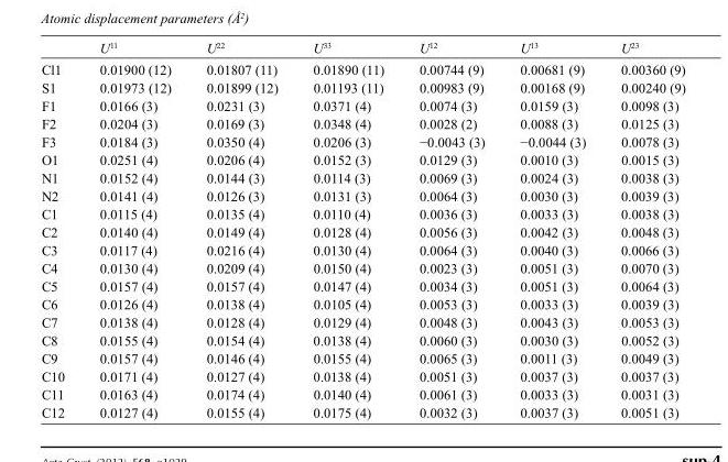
<table><thead><tr><td></td><td>U<sup>11</sup></td><td>U<sup>22</sup></td><td>U<sup>33</sup></td><td>U<sup>12</sup></td><td>U<sup>13</sup></td><td>U<sup>23</sup></td></tr></thead><tbody><tr><td>Cl1</td><td>0.01900 (12)</td><td>0.01807 (11)</td><td>0.01890 (11)</td><td>0.00744 (9)</td><td>0.00681 (9)</td><td>0.00360 (9)</td></tr><tr><td>S1</td><td>0.01973 (12)</td><td>0.01899 (12)</td><td>0.01193 (11)</td><td>0.00983 (9)</td><td>0.00168 (9)</td><td>0.00240 (9)</td></tr><tr><td>F1</td><td>0.0166 (3)</td><td>0.0231 (3)</td><td>0.0371 (4)</td><td>0.0074 (3)</td><td>0.0159 (3)</td><td>0.0098 (3)</td></tr><tr><td>F2</td><td>0.0204 (3)</td><td>0.0169 (3)</td><td>0.0348 (4)</td><td>0.0028 (2)</td><td>0.0088 (3)</td><td>0.0125 (3)</td></tr><tr><td>F3</td><td>0.0184 (3)</td><td>0.0350 (4)</td><td>0.0206 (3)</td><td>−0.0043 (3)</td><td>−0.0044 (3)</td><td>0.0078 (3)</td></tr><tr><td>O1</td><td>0.0251 (4)</td><td>0.0206 (4)</td><td>0.0152 (3)</td><td>0.0129 (3)</td><td>0.0010 (3)</td><td>0.0015 (3)</td></tr><tr><td>N1</td><td>0.0152 (4)</td><td>0.0144 (3)</td><td>0.0114 (3)</td><td>0.0069 (3)</td><td>0.0024 (3)</td><td>0.0038 (3)</td></tr><tr><td>N2</td><td>0.0141 (4)</td><td>0.0126 (3)</td><td>0.0131 (3)</td><td>0.0064 (3)</td><td>0.0030 (3)</td><td>0.0039 (3)</td></tr><tr><td>C1</td><td>0.0115 (4)</td><td>0.0135 (4)</td><td>0.0110 (4)</td><td>0.0036 (3)</td><td>0.0033 (3)</td><td>0.0038 (3)</td></tr><tr><td>C2</td><td>0.0140 (4)</td><td>0.0149 (4)</td><td>0.0128 (4)</td><td>0.0056 (3)</td><td>0.0042 (3)</td><td>0.0048 (3)</td></tr><tr><td>C3</td><td>0.0117 (4)</td><td>0.0216 (4)</td><td>0.0130 (4)</td><td>0.0064 (3)</td><td>0.0040 (3)</td><td>0.0066 (3)</td></tr><tr><td>C4</td><td>0.0130 (4)</td><td>0.0209 (4)</td><td>0.0150 (4)</td><td>0.0023 (3)</td><td>0.0051 (3)</td><td>0.0070 (3)</td></tr><tr><td>C5</td><td>0.0157 (4)</td><td>0.0157 (4)</td><td>0.0147 (4)</td><td>0.0034 (3)</td><td>0.0051 (3)</td><td>0.0064 (3)</td></tr><tr><td>C6</td><td>0.0126 (4)</td><td>0.0138 (4)</td><td>0.0105 (4)</td><td>0.0053 (3)</td><td>0.0033 (3)</td><td>0.0039 (3)</td></tr><tr><td>C7</td><td>0.0138 (4)</td><td>0.0128 (4)</td><td>0.0129 (4)</td><td>0.0048 (3)</td><td>0.0043 (3)</td><td>0.0053 (3)</td></tr><tr><td>C8</td><td>0.0155 (4)</td><td>0.0154 (4)</td><td>0.0138 (4)</td><td>0.0060 (3)</td><td>0.0030 (3)</td><td>0.0052 (3)</td></tr><tr><td>C9</td><td>0.0157 (4)</td><td>0.0146 (4)</td><td>0.0155 (4)</td><td>0.0065 (3)</td><td>0.0011 (3)</td><td>0.0049 (3)</td></tr><tr><td>C10</td><td>0.0171 (4)</td><td>0.0127 (4)</td><td>0.0138 (4)</td><td>0.0051 (3)</td><td>0.0037 (3)</td><td>0.0037 (3)</td></tr><tr><td>C11</td><td>0.0163 (4)</td><td>0.0174 (4)</td><td>0.0140 (4)</td><td>0.0061 (3)</td><td>0.0033 (3)</td><td>0.0031 (3)</td></tr><tr><td>C12</td><td>0.0127 (4)</td><td>0.0155 (4)</td><td>0.0175 (4)</td><td>0.0032 (3)</td><td>0.0037 (3)</td><td>0.0051 (3)</td></tr></tbody></table>